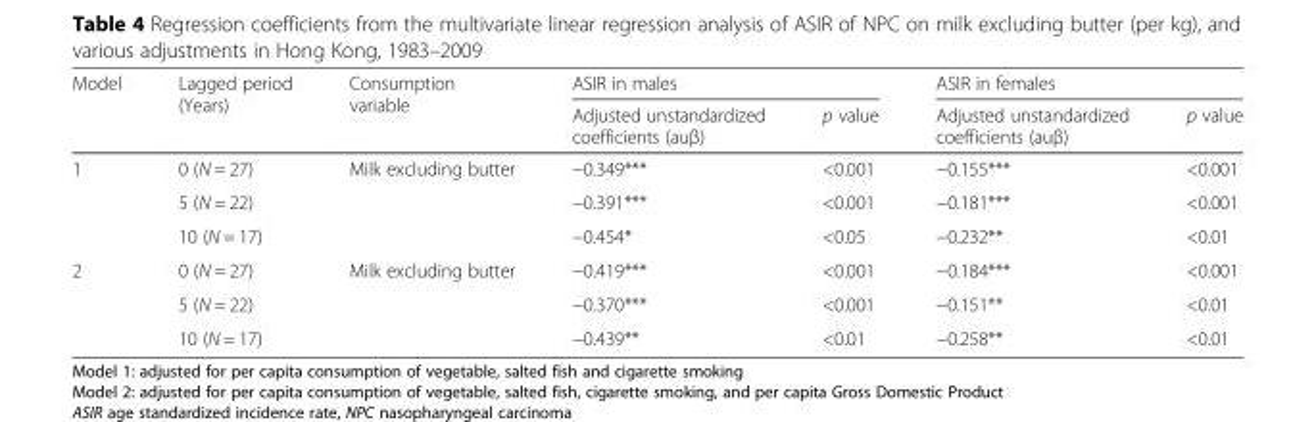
<table><thead><tr><td rowspan="2">Model</td><td rowspan="2">Lagged period (Years)</td><td rowspan="2">Consumption variable</td><td colspan="2">ASIR in males</td><td colspan="2">ASIR in females</td></tr><tr><td>Adjusted unstandardized coefficients (auβ)</td><td>p value</td><td>Adjusted unstandardized coefficients (auβ)</td><td>p value</td></tr></thead><tbody><tr><td rowspan="3">1</td><td>0 (N = 27)</td><td rowspan="3">Milk excluding butter</td><td>−0.349***</td><td>&lt;0.001</td><td>−0.155***</td><td>&lt;0.001</td></tr><tr><td>5 (N = 22)</td><td>−0.391***</td><td>&lt;0.001</td><td>−0.181***</td><td>&lt;0.001</td></tr><tr><td>10 (N = 17)</td><td>−0.454*</td><td>&lt;0.05</td><td>−0.232**</td><td>&lt;0.01</td></tr><tr><td rowspan="3">2</td><td>0 (N = 27)</td><td rowspan="3">Milk excluding butter</td><td>−0.419***</td><td>&lt;0.001</td><td>−0.184***</td><td>&lt;0.001</td></tr><tr><td>5 (N = 22)</td><td>−0.370***</td><td>&lt;0.001</td><td>−0.151**</td><td>&lt;0.01</td></tr><tr><td>10 (N = 17)</td><td>−0.439**</td><td>&lt;0.01</td><td>−0.258**</td><td>&lt;0.01</td></tr></tbody></table>